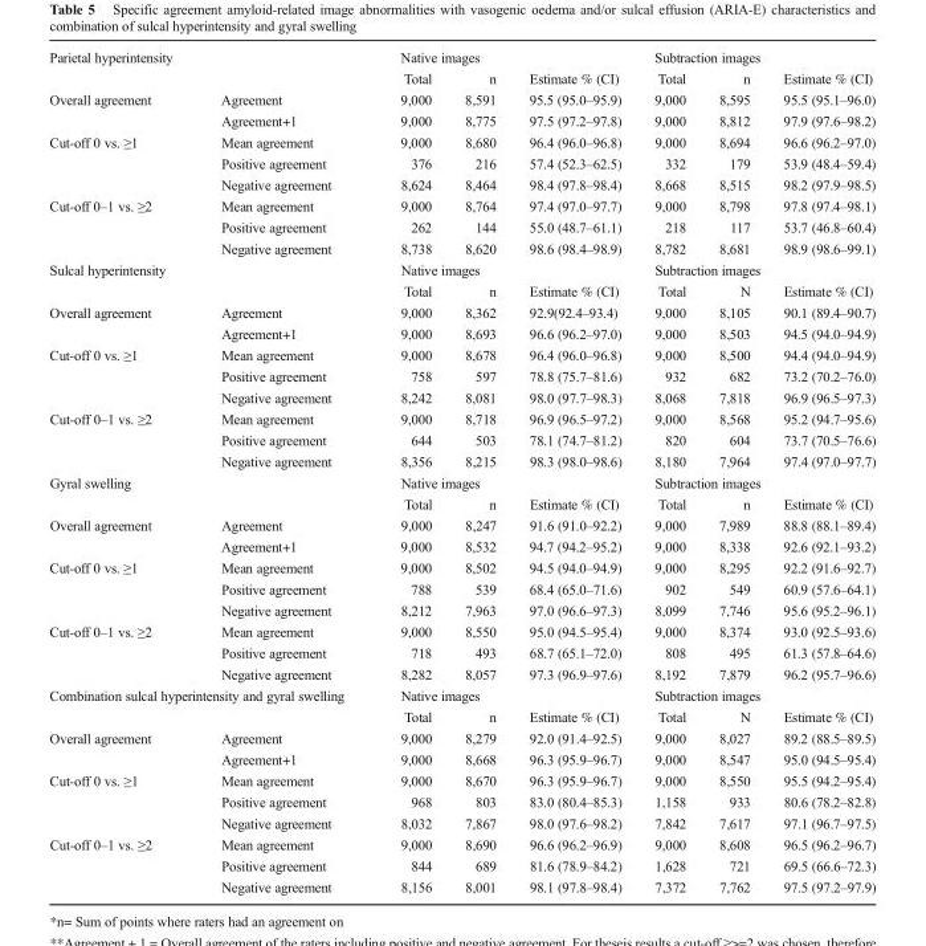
<table><tbody><tr><td rowspan="2" colspan="2">Parietal hyperintensity</td><td colspan="3">Native images</td><td colspan="3">Subtraction images</td></tr><tr><td>Total</td><td>n</td><td>Estimate % (CI)</td><td>Total</td><td>n</td><td>Estimate % (CI)</td></tr><tr><td rowspan="2">Overall agreement</td><td>Agreement</td><td>9,000</td><td>8,591</td><td>95.5 (95.0–95.9)</td><td>9,000</td><td>8,595</td><td>95.5 (95.1–96.0)</td></tr><tr><td>Agreement+1</td><td>9,000</td><td>8,775</td><td>97.5 (97.2–97.8)</td><td>9,000</td><td>8,812</td><td>97.9 (97.6–98.2)</td></tr><tr><td rowspan="3">Cut-off 0 vs. ≥1</td><td>Mean agreement</td><td>9,000</td><td>8,680</td><td>96.4 (96.0–96.8)</td><td>9,000</td><td>8,694</td><td>96.6 (96.2–97.0)</td></tr><tr><td>Positive agreement</td><td>376</td><td>216</td><td>57.4 (52.3–62.5)</td><td>332</td><td>179</td><td>53.9 (48.4–59.4)</td></tr><tr><td>Negative agreement</td><td>8,624</td><td>8,464</td><td>98.4 (97.8–98.4)</td><td>8,668</td><td>8,515</td><td>98.2 (97.9–98.5)</td></tr><tr><td rowspan="3">Cut-off 0–1 vs. ≥2</td><td>Mean agreement</td><td>9,000</td><td>8,764</td><td>97.4 (97.0–97.7)</td><td>9,000</td><td>8,798</td><td>97.8 (97.4–98.1)</td></tr><tr><td>Positive agreement</td><td>262</td><td>144</td><td>55.0 (48.7–61.1)</td><td>218</td><td>117</td><td>53.7 (46.8–60.4)</td></tr><tr><td>Negative agreement</td><td>8,738</td><td>8,620</td><td>98.6 (98.4–98.9)</td><td>8,782</td><td>8,681</td><td>98.9 (98.6–99.1)</td></tr><tr><td rowspan="2" colspan="2">Sulcal hyperintensity</td><td colspan="3">Native images</td><td colspan="3">Subtraction images</td></tr><tr><td>Total</td><td>n</td><td>Estimate % (CI)</td><td>Total</td><td>N</td><td>Estimate % (CI)</td></tr><tr><td rowspan="2">Overall agreement</td><td>Agreement</td><td>9,000</td><td>8,362</td><td>92.9(92.4–93.4)</td><td>9,000</td><td>8,105</td><td>90.1 (89.4–90.7)</td></tr><tr><td>Agreement+1</td><td>9,000</td><td>8,693</td><td>96.6 (96.2–97.0)</td><td>9,000</td><td>8,503</td><td>94.5 (94.0–94.9)</td></tr><tr><td rowspan="3">Cut-off 0 vs. ≥1</td><td>Mean agreement</td><td>9,000</td><td>8,678</td><td>96.4 (96.0–96.8)</td><td>9,000</td><td>8,500</td><td>94.4 (94.0–94.9)</td></tr><tr><td>Positive agreement</td><td>758</td><td>597</td><td>78.8 (75.7–81.6)</td><td>932</td><td>682</td><td>73.2 (70.2–76.0)</td></tr><tr><td>Negative agreement</td><td>8,242</td><td>8,081</td><td>98.0 (97.7–98.3)</td><td>8,068</td><td>7,818</td><td>96.9 (96.5–97.3)</td></tr><tr><td rowspan="3">Cut-off 0–1 vs. ≥2</td><td>Mean agreement</td><td>9,000</td><td>8,718</td><td>96.9 (96.5–97.2)</td><td>9,000</td><td>8,568</td><td>95.2 (94.7–95.6)</td></tr><tr><td>Positive agreement</td><td>644</td><td>503</td><td>78.1 (74.7–81.2)</td><td>820</td><td>604</td><td>73.7 (70.5–76.6)</td></tr><tr><td>Negative agreement</td><td>8,356</td><td>8,215</td><td>98.3 (98.0–98.6)</td><td>8,180</td><td>7,964</td><td>97.4 (97.0–97.7)</td></tr><tr><td rowspan="2" colspan="2">Gyral swelling</td><td colspan="3">Native images</td><td colspan="3">Subtraction images</td></tr><tr><td>Total</td><td>n</td><td>Estimate % (CI)</td><td>Total</td><td>n</td><td>Estimate % (CI)</td></tr><tr><td rowspan="2">Overall agreement</td><td>Agreement</td><td>9,000</td><td>8,247</td><td>91.6 (91.0–92.2)</td><td>9,000</td><td>7,989</td><td>88.8 (88.1–89.4)</td></tr><tr><td>Agreement+1</td><td>9,000</td><td>8,532</td><td>94.7 (94.2–95.2)</td><td>9,000</td><td>8,338</td><td>92.6 (92.1–93.2)</td></tr><tr><td rowspan="3">Cut-off 0 vs. ≥1</td><td>Mean agreement</td><td>9,000</td><td>8,502</td><td>94.5 (94.0–94.9)</td><td>9,000</td><td>8,295</td><td>92.2 (91.6–92.7)</td></tr><tr><td>Positive agreement</td><td>788</td><td>539</td><td>68.4 (65.0–71.6)</td><td>902</td><td>549</td><td>60.9 (57.6–64.1)</td></tr><tr><td>Negative agreement</td><td>8,212</td><td>7,963</td><td>97.0 (96.6–97.3)</td><td>8,099</td><td>7,746</td><td>95.6 (95.2–96.1)</td></tr><tr><td rowspan="3">Cut-off 0–1 vs. ≥2</td><td>Mean agreement</td><td>9,000</td><td>8,550</td><td>95.0 (94.5–95.4)</td><td>9,000</td><td>8,374</td><td>93.0 (92.5–93.6)</td></tr><tr><td>Positive agreement</td><td>718</td><td>493</td><td>68.7 (65.1–72.0)</td><td>808</td><td>495</td><td>61.3 (57.8–64.6)</td></tr><tr><td>Negative agreement</td><td>8,282</td><td>8,057</td><td>97.3 (96.9–97.6)</td><td>8,192</td><td>7,879</td><td>96.2 (95.7–96.6)</td></tr><tr><td rowspan="2" colspan="2">Combination sulcal hyperintensity and gyral swelling</td><td colspan="3">Native images</td><td colspan="3">Subtraction images</td></tr><tr><td>Total</td><td>n</td><td>Estimate % (CI)</td><td>Total</td><td>N</td><td>Estimate % (CI)</td></tr><tr><td rowspan="2">Overall agreement</td><td>Agreement</td><td>9,000</td><td>8,279</td><td>92.0 (91.4–92.5)</td><td>9,000</td><td>8,027</td><td>89.2 (88.5–89.5)</td></tr><tr><td>Agreement+1</td><td>9,000</td><td>8,668</td><td>96.3 (95.9–96.7)</td><td>9,000</td><td>8,547</td><td>95.0 (94.5–95.4)</td></tr><tr><td rowspan="3">Cut-off 0 vs. ≥1</td><td>Mean agreement</td><td>9,000</td><td>8,670</td><td>96.3 (95.9–96.7)</td><td>9,000</td><td>8,550</td><td>95.5 (94.2–95.4)</td></tr><tr><td>Positive agreement</td><td>968</td><td>803</td><td>83.0 (80.4–85.3)</td><td>1,158</td><td>933</td><td>80.6 (78.2–82.8)</td></tr><tr><td>Negative agreement</td><td>8,032</td><td>7,867</td><td>98.0 (97.6–98.2)</td><td>7,842</td><td>7,617</td><td>97.1 (96.7–97.5)</td></tr><tr><td rowspan="3">Cut-off 0–1 vs. ≥2</td><td>Mean agreement</td><td>9,000</td><td>8,690</td><td>96.6 (96.2–96.9)</td><td>9,000</td><td>8,608</td><td>96.5 (96.2–96.7)</td></tr><tr><td>Positive agreement</td><td>844</td><td>689</td><td>81.6 (78.9–84.2)</td><td>1,628</td><td>721</td><td>69.5 (66.6–72.3)</td></tr><tr><td>Negative agreement</td><td>8,156</td><td>8,001</td><td>98.1 (97.8–98.4)</td><td>7,372</td><td>7,762</td><td>97.5 (97.2–97.9)</td></tr></tbody></table>